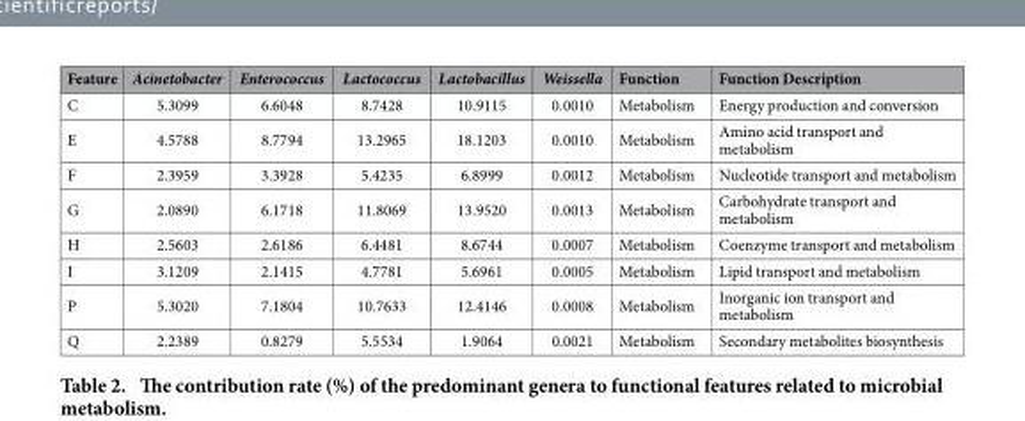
<table><thead><tr><td>Feature</td><td>Acinetobacter</td><td>Enterococcus</td><td>Lactococcus</td><td>Lactobacillus</td><td>Weissella</td><td>Function</td><td>Function Description</td></tr></thead><tbody><tr><td>C</td><td>5.3099</td><td>6.6048</td><td>8.7428</td><td>10.9115</td><td>0.0010</td><td>Metabolism</td><td>Energy production and conversion</td></tr><tr><td>E</td><td>4.5788</td><td>8.7794</td><td>13.2965</td><td>18.1203</td><td>0.0010</td><td>Metabolism</td><td>Amino acid transport and metabolism</td></tr><tr><td>F</td><td>2.3959</td><td>3.3928</td><td>5.4235</td><td>6.8999</td><td>0.0012</td><td>Metabolism</td><td>Nucleotide transport and metabolism</td></tr><tr><td>G</td><td>2.0890</td><td>6.1718</td><td>11.8069</td><td>13.9520</td><td>0.0013</td><td>Metabolism</td><td>Carbohydrate transport and metabolism</td></tr><tr><td>H</td><td>2.5603</td><td>2.6186</td><td>6.4481</td><td>8.6744</td><td>0.0007</td><td>Metabolism</td><td>Coenzyme transport and metabolism</td></tr><tr><td>I</td><td>3.1209</td><td>2.1415</td><td>4.7781</td><td>5.6961</td><td>0.0005</td><td>Metabolism</td><td>Lipid transport and metabolism</td></tr><tr><td>P</td><td>5.3020</td><td>7.1804</td><td>10.7633</td><td>12.4146</td><td>0.0008</td><td>Metabolism</td><td>Inorganic ion transport and metabolism</td></tr><tr><td>Q</td><td>2.2389</td><td>0.8279</td><td>5.5534</td><td>1.9064</td><td>0.0021</td><td>Metabolism</td><td>Secondary metabolites biosynthesis</td></tr></tbody></table>